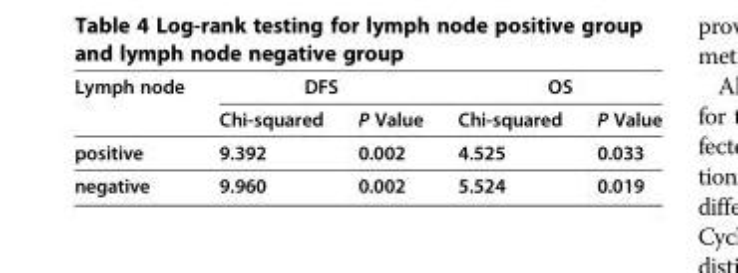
<table><thead><tr><td rowspan="2">Lymph node</td><td colspan="2">DFS</td><td colspan="2">OS</td></tr><tr><td>Chi-squared</td><td>P Value</td><td>Chi-squared</td><td>P Value</td></tr></thead><tbody><tr><td>positive</td><td>9.392</td><td>0.002</td><td>4.525</td><td>0.033</td></tr><tr><td>negative</td><td>9.960</td><td>0.002</td><td>5.524</td><td>0.019</td></tr></tbody></table>